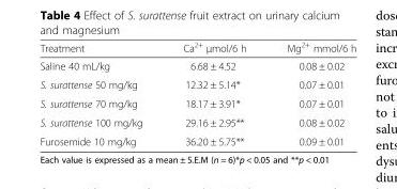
<table><thead><tr><td>Treatment</td><td>Ca<sup>2+</sup> μmol/6 h</td><td>Mg<sup>2+</sup> mmol/6 h</td></tr></thead><tbody><tr><td>Saline 40 mL/kg</td><td>6.68 ± 4.52</td><td>0.08 ± 0.02</td></tr><tr><td>S. surattense 50 mg/kg</td><td>12.32 ± 5.14*</td><td>0.07 ± 0.01</td></tr><tr><td>S. surattense 70 mg/kg</td><td>18.17 ± 3.91*</td><td>0.07 ± 0.01</td></tr><tr><td>S. surattense 100 mg/kg</td><td>29.16 ± 2.95**</td><td>0.08 ± 0.02</td></tr><tr><td>Furosemide 10 mg/kg</td><td>36.20 ± 5.75**</td><td>0.09 ± 0.01</td></tr></tbody></table>